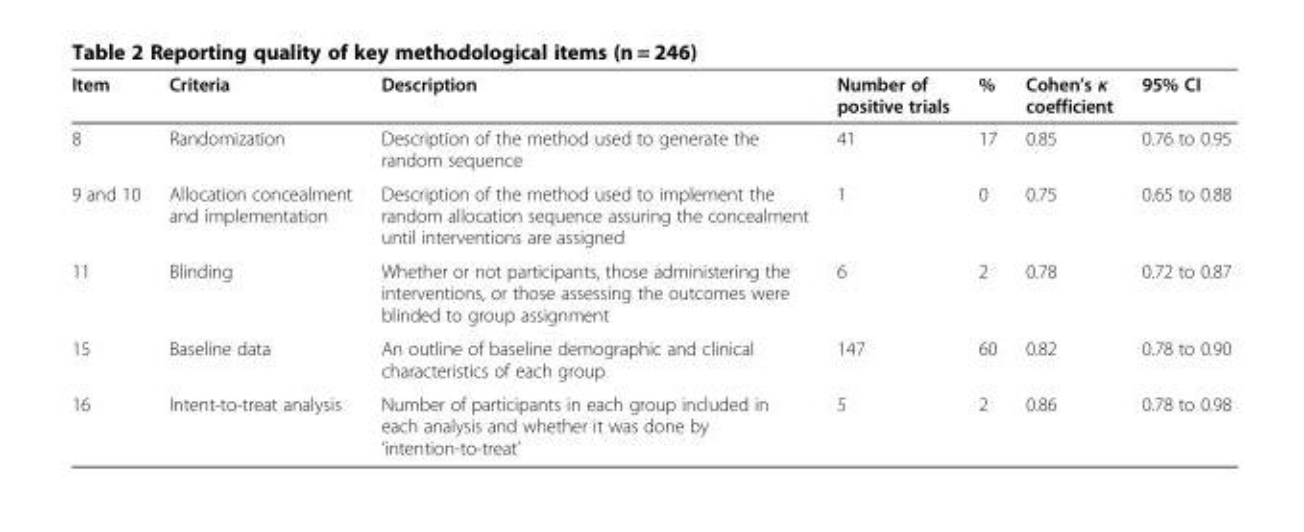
<table><thead><tr><td>Item</td><td>Criteria</td><td>Description</td><td>Number of positive trials</td><td>%</td><td>Cohen’s к coefficient</td><td>95% CI</td></tr></thead><tbody><tr><td>8</td><td>Randomization</td><td>Description of the method used to generate the random sequence</td><td>41</td><td>17</td><td>0.85</td><td>0.76 to 0.95</td></tr><tr><td>9 and 10</td><td>Allocation concealment and implementation</td><td>Description of the method used to implement the random allocation sequence assuring the concealment until interventions are assigned</td><td>1</td><td>0</td><td>0.75</td><td>0.65 to 0.88</td></tr><tr><td>11</td><td>Blinding</td><td>Whether or not participants, those administering the interventions, or those assessing the outcomes were blinded to group assignment</td><td>6</td><td>2</td><td>0.78</td><td>0.72 to 0.87</td></tr><tr><td>15</td><td>Baseline data</td><td>An outline of baseline demographic and clinical characteristics of each group</td><td>147</td><td>60</td><td>0.82</td><td>0.78 to 0.90</td></tr><tr><td>16</td><td>Intent-to-treat analysis</td><td>Number of participants in each group included in each analysis and whether it was done by ‘intention-to-treat’</td><td>5</td><td>2</td><td>0.86</td><td>0.78 to 0.98</td></tr></tbody></table>